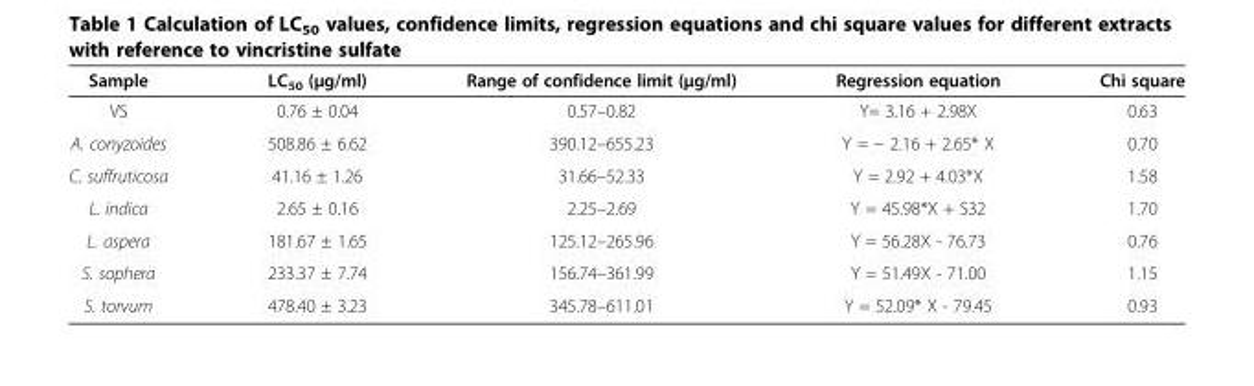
<table><thead><tr><td>Sample</td><td>LC<sub>50</sub> (μg/ml)</td><td>Range of confidence limit (μg/ml)</td><td>Regression equation</td><td>Chi square</td></tr></thead><tbody><tr><td>VS</td><td>0.76 ± 0.04</td><td>0.57–0.82</td><td>Y= 3.16 + 2.98X</td><td>0.63</td></tr><tr><td>A. conyzoides</td><td>508.86 ± 6.62</td><td>390.12–655.23</td><td>Y = − 2.16 + 2.65* X</td><td>0.70</td></tr><tr><td>C. suffruticosa</td><td>41.16 ± 1.26</td><td>31.66–52.33</td><td>Y = 2.92 + 4.03*X</td><td>1.58</td></tr><tr><td>L. indica</td><td>2.65 ± 0.16</td><td>2.25–2.69</td><td>Y = 45.98*X + S32</td><td>1.70</td></tr><tr><td>L. aspera</td><td>181.67 ± 1.65</td><td>125.12–265.96</td><td>Y = 56.28X - 76.73</td><td>0.76</td></tr><tr><td>S. sophera</td><td>233.37 ± 7.74</td><td>156.74–361.99</td><td>Y = 51.49X - 71.00</td><td>1.15</td></tr><tr><td>S. torvum</td><td>478.40 ± 3.23</td><td>345.78–611.01</td><td>Y = 52.09* X - 79.45</td><td>0.93</td></tr></tbody></table>